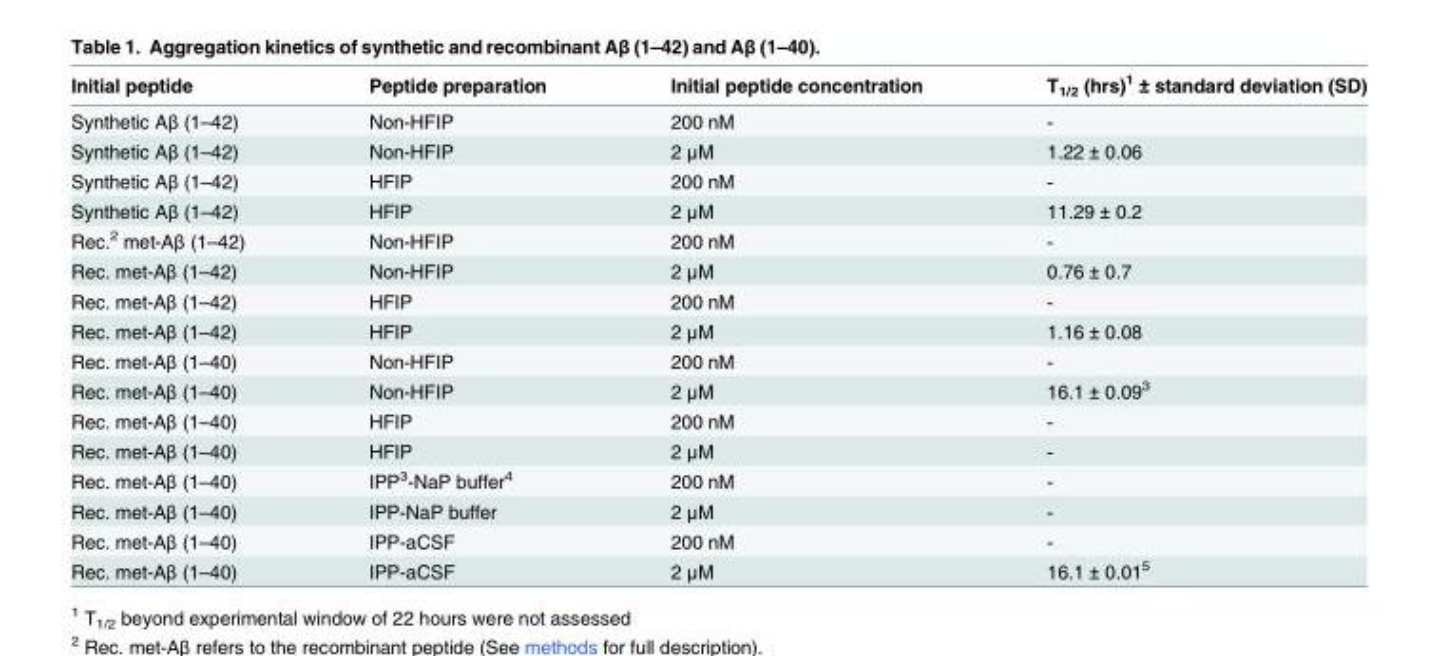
<table><thead><tr><td>Initial peptide</td><td>Peptide preparation</td><td>Initial peptide concentration</td><td>T<sub>1/2</sub> (hrs)<sup>1</sup> ± standard deviation (SD)</td></tr></thead><tbody><tr><td>Synthetic Aβ (1–42)</td><td>Non-HFIP</td><td>200 nM</td><td>-</td></tr><tr><td>Synthetic Aβ (1–42)</td><td>Non-HFIP</td><td>2 μM</td><td>1.22 ± 0.06</td></tr><tr><td>Synthetic Aβ (1–42)</td><td>HFIP</td><td>200 nM</td><td>-</td></tr><tr><td>Synthetic Aβ (1–42)</td><td>HFIP</td><td>2 μM</td><td>11.29 ± 0.2</td></tr><tr><td>Rec.<sup>2</sup> met-Aβ (1–42)</td><td>Non-HFIP</td><td>200 nM</td><td>-</td></tr><tr><td>Rec. met-Aβ (1–42)</td><td>Non-HFIP</td><td>2 μM</td><td>0.76 ± 0.7</td></tr><tr><td>Rec. met-Aβ (1–42)</td><td>HFIP</td><td>200 nM</td><td>-</td></tr><tr><td>Rec. met-Aβ (1–42)</td><td>HFIP</td><td>2 μM</td><td>1.16 ± 0.08</td></tr><tr><td>Rec. met-Aβ (1–40)</td><td>Non-HFIP</td><td>200 nM</td><td>-</td></tr><tr><td>Rec. met-Aβ (1–40)</td><td>Non-HFIP</td><td>2 μM</td><td>16.1 ± 0.09<sup>3</sup></td></tr><tr><td>Rec. met-Aβ (1–40)</td><td>HFIP</td><td>200 nM</td><td>-</td></tr><tr><td>Rec. met-Aβ (1–40)</td><td>HFIP</td><td>2 μM</td><td>-</td></tr><tr><td>Rec. met-Aβ (1–40)</td><td>IPP<sup>3</sup>-NaP buffer<sup>4</sup></td><td>200 nM</td><td>-</td></tr><tr><td>Rec. met-Aβ (1–40)</td><td>IPP-NaP buffer</td><td>2 μM</td><td>-</td></tr><tr><td>Rec. met-Aβ (1–40)</td><td>IPP-aCSF</td><td>200 nM</td><td>-</td></tr><tr><td>Rec. met-Aβ (1–40)</td><td>IPP-aCSF</td><td>2 μM</td><td>16.1 ± 0.01<sup>5</sup></td></tr></tbody></table>